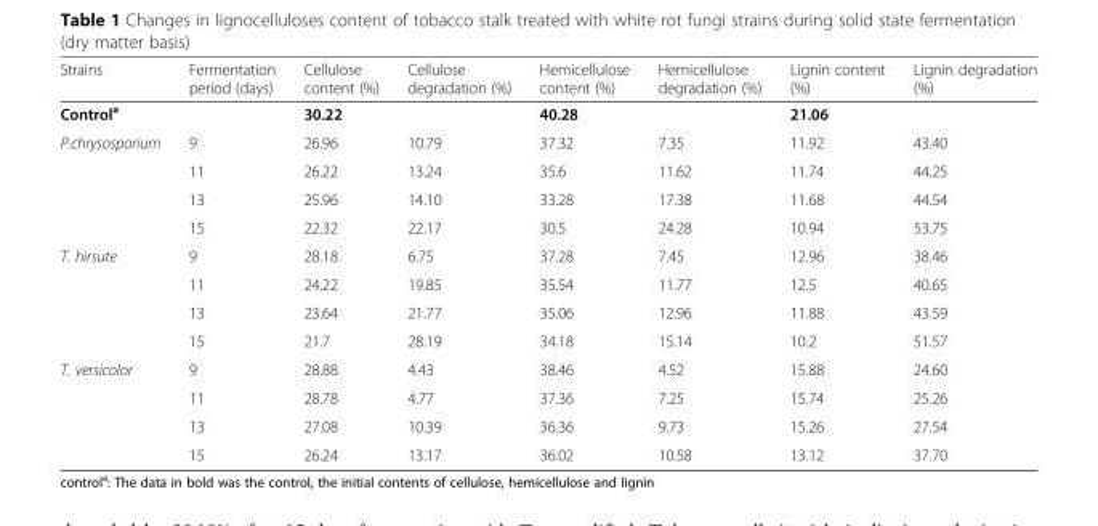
<table><thead><tr><td>Strains</td><td>Fermentation period (days)</td><td>Cellulose content (%)</td><td>Cellulose degradation (%)</td><td>Hemicellulose content (%)</td><td>Hemicellulose degradation (%)</td><td>Lignin content (%)</td><td>Lignin degradation (%)</td></tr></thead><tbody><tr><td>Control<sup>a</sup></td><td></td><td>30.22</td><td></td><td>40.28</td><td></td><td>21.06</td><td></td></tr><tr><td rowspan="4">P.chrysosporium</td><td>9</td><td>26.96</td><td>10.79</td><td>37.32</td><td>7.35</td><td>11.92</td><td>43.40</td></tr><tr><td>11</td><td>26.22</td><td>13.24</td><td>35.6</td><td>11.62</td><td>11.74</td><td>44.25</td></tr><tr><td>13</td><td>25.96</td><td>14.10</td><td>33.28</td><td>17.38</td><td>11.68</td><td>44.54</td></tr><tr><td>15</td><td>22.32</td><td>22.17</td><td>30.5</td><td>24.28</td><td>10.94</td><td>53.75</td></tr><tr><td rowspan="4">T. hirsute</td><td>9</td><td>28.18</td><td>6.75</td><td>37.28</td><td>7.45</td><td>12.96</td><td>38.46</td></tr><tr><td>11</td><td>24.22</td><td>19.85</td><td>35.54</td><td>11.77</td><td>12.5</td><td>40.65</td></tr><tr><td>13</td><td>23.64</td><td>21.77</td><td>35.06</td><td>12.96</td><td>11.88</td><td>43.59</td></tr><tr><td>15</td><td>21.7</td><td>28.19</td><td>34.18</td><td>15.14</td><td>10.2</td><td>51.57</td></tr><tr><td rowspan="4">T. versicolor</td><td>9</td><td>28.88</td><td>4.43</td><td>38.46</td><td>4.52</td><td>15.88</td><td>24.60</td></tr><tr><td>11</td><td>28.78</td><td>4.77</td><td>37.36</td><td>7.25</td><td>15.74</td><td>25.26</td></tr><tr><td>13</td><td>27.08</td><td>10.39</td><td>36.36</td><td>9.73</td><td>15.26</td><td>27.54</td></tr><tr><td>15</td><td>26.24</td><td>13.17</td><td>36.02</td><td>10.58</td><td>13.12</td><td>37.70</td></tr></tbody></table>